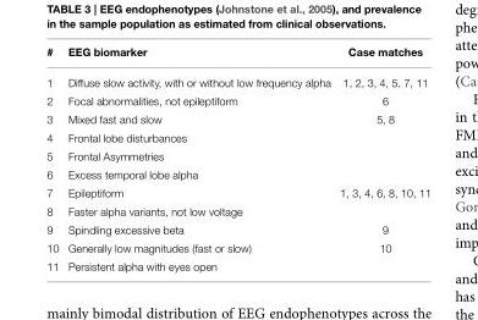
<table><thead><tr><td>#</td><td>EEG biomarker</td><td>Case matches</td></tr></thead><tbody><tr><td>1</td><td>Diffuse slow activity, with or without low frequency alpha</td><td>1, 2, 3, 4, 5, 7, 11</td></tr><tr><td>2</td><td>Focal abnormalities, not epileptiform</td><td>6</td></tr><tr><td>3</td><td>Mixed fast and slow</td><td>5, 8</td></tr><tr><td>4</td><td>Frontal lobe disturbances</td><td></td></tr><tr><td>5</td><td>Frontal Asymmetries</td><td></td></tr><tr><td>6</td><td>Excess temporal lobe alpha</td><td></td></tr><tr><td>7</td><td>Epileptiform</td><td>1, 3, 4, 6, 8, 10, 11</td></tr><tr><td>8</td><td>Faster alpha variants, not low voltage</td><td></td></tr><tr><td>9</td><td>Spindling excessive beta</td><td>9</td></tr><tr><td>10</td><td>Generally low magnitudes (fast or slow)</td><td>10</td></tr><tr><td>11</td><td>Persistent alpha with eyes open</td><td></td></tr></tbody></table>